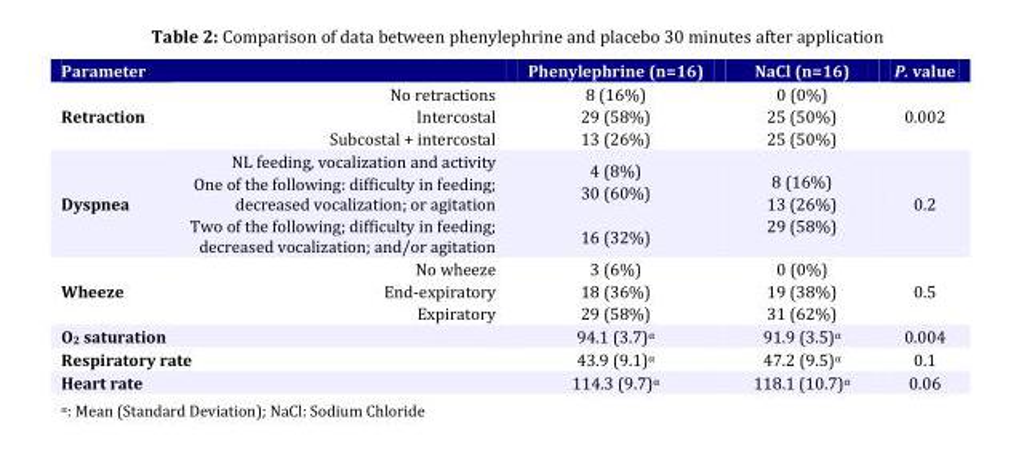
<table><tbody><tr><td colspan="2">Parameter</td><td>Phenylephrine (n=16)</td><td>NaCl (n=16)</td><td>P. value</td></tr><tr><td>Retraction</td><td>No retractions Intercostal Subcostal + intercostal</td><td>8 (16%) 29 (58%) 13 (26%)</td><td>0 (0%) 25 (50%) 25 (50%)</td><td>0.002</td></tr><tr><td>Dyspnea</td><td>NL feeding, vocalization and activity One of the following: difficulty in feeding; decreased vocalization; or agitation Two of the following; difficulty in feeding; decreased vocalization; and/or agitation</td><td>4 (8%) 30 (60%) 16 (32%)</td><td>8 (16%) 13 (26%) 29 (58%)</td><td>0.2</td></tr><tr><td>Wheeze</td><td>No wheeze End-expiratory Expiratory</td><td>3 (6%) 18 (36%) 29 (58%)</td><td>0 (0%) 19 (38%) 31 (62%)</td><td>0.5</td></tr><tr><td colspan="2">O<sub>2</sub> saturation</td><td>94.1 (3.7)α</td><td>91.9 (3.5)α</td><td>0.004</td></tr><tr><td colspan="2">Respiratory rate</td><td>43.9 (9.1)α</td><td>47.2 (9.5)α</td><td>0.1</td></tr><tr><td colspan="2">Heart rate</td><td>114.3 (9.7)α</td><td>118.1 (10.7)α</td><td>0.06</td></tr></tbody></table>